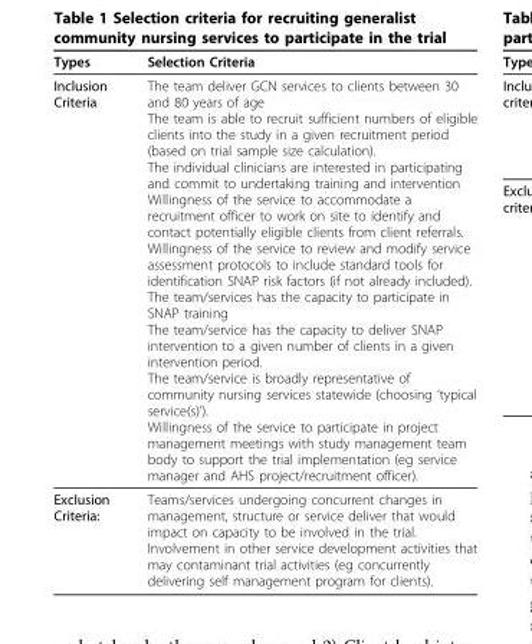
<table><thead><tr><td>Types</td><td>Selection Criteria</td></tr></thead><tbody><tr><td>Inclusion Criteria</td><td>The team deliver GCN services to clients between 30 and 80 years of age The team is able to recruit sufficient numbers of eligible clients into the study in a given recruitment period (based on trial sample size calculation). The individual clinicians are interested in participating and commit to undertaking training and intervention Willingness of the service to accommodate a recruitment officer to work on site to identify and contact potentially eligible clients from client referrals. Willingness of the service to review and modify service assessment protocols to include standard tools for identification SNAP risk factors (if not already included). The team/services has the capacity to participate in SNAP training The team/service has the capacity to deliver SNAP intervention to a given number of clients in a given intervention period. The team/service is broadly representative of community nursing services statewide (choosing ‘typical service(s)’). Willingness of the service to participate in project management meetings with study management team body to support the trial implementation (eg service manager and AHS project/recruitment officer).</td></tr><tr><td>Exclusion Criteria:</td><td>Teams/services undergoing concurrent changes in management, structure or service deliver that would impact on capacity to be involved in the trial. Involvement in other service development activities that may contaminant trial activities (eg concurrently delivering self management program for clients).</td></tr></tbody></table>